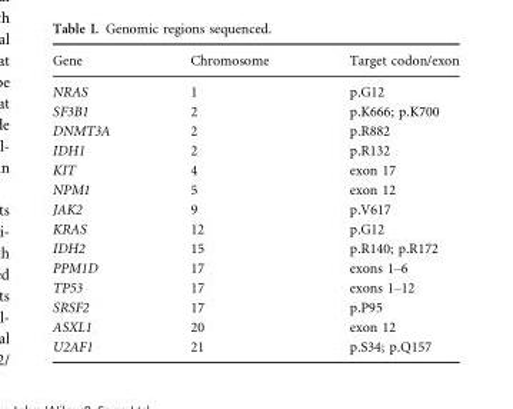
<table><thead><tr><td>Gene</td><td>Chromosome</td><td>Target codon/exon</td></tr></thead><tbody><tr><td>NRAS</td><td>1</td><td>p.G12</td></tr><tr><td>SF3B1</td><td>2</td><td>p.K666; p.K700</td></tr><tr><td>DNMT3A</td><td>2</td><td>p.R882</td></tr><tr><td>IDH1</td><td>2</td><td>p.R132</td></tr><tr><td>KIT</td><td>4</td><td>exon 17</td></tr><tr><td>NPM1</td><td>5</td><td>exon 12</td></tr><tr><td>JAK2</td><td>9</td><td>p.V617</td></tr><tr><td>KRAS</td><td>12</td><td>p.G12</td></tr><tr><td>IDH2</td><td>15</td><td>p.R140; p.R172</td></tr><tr><td>PPM1D</td><td>17</td><td>exons 1–6</td></tr><tr><td>TP53</td><td>17</td><td>exons 1–12</td></tr><tr><td>SRSF2</td><td>17</td><td>p.P95</td></tr><tr><td>ASXL1</td><td>20</td><td>exon 12</td></tr><tr><td>U2AF1</td><td>21</td><td>p.S34; p.Q157</td></tr></tbody></table>